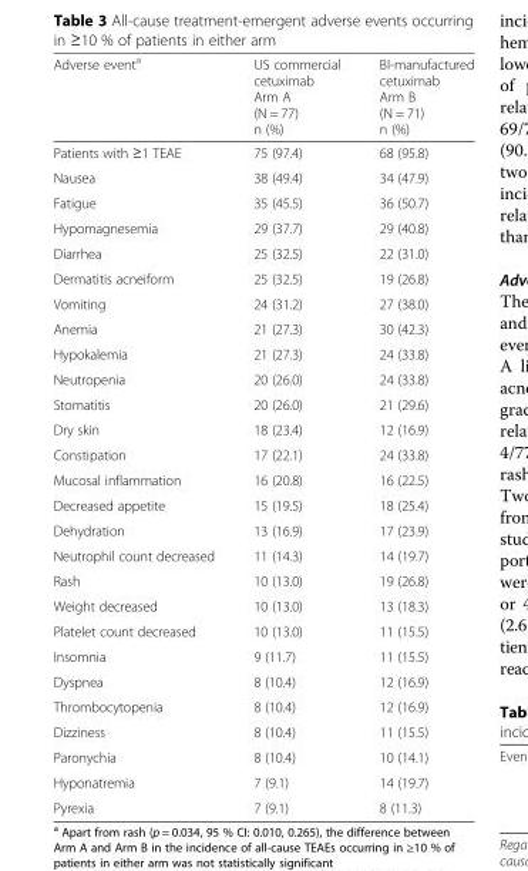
<table><thead><tr><td>Adverse event<sup>a</sup></td><td>US commercial cetuximab Arm A (N = 77) n (%)</td><td>BI-manufactured cetuximab Arm B (N = 71) n (%)</td></tr></thead><tbody><tr><td>Patients with ≥1 TEAE</td><td>75 (97.4)</td><td>68 (95.8)</td></tr><tr><td>Nausea</td><td>38 (49.4)</td><td>34 (47.9)</td></tr><tr><td>Fatigue</td><td>35 (45.5)</td><td>36 (50.7)</td></tr><tr><td>Hypomagnesemia</td><td>29 (37.7)</td><td>29 (40.8)</td></tr><tr><td>Diarrhea</td><td>25 (32.5)</td><td>22 (31.0)</td></tr><tr><td>Dermatitis acneiform</td><td>25 (32.5)</td><td>19 (26.8)</td></tr><tr><td>Vomiting</td><td>24 (31.2)</td><td>27 (38.0)</td></tr><tr><td>Anemia</td><td>21 (27.3)</td><td>30 (42.3)</td></tr><tr><td>Hypokalemia</td><td>21 (27.3)</td><td>24 (33.8)</td></tr><tr><td>Neutropenia</td><td>20 (26.0)</td><td>24 (33.8)</td></tr><tr><td>Stomatitis</td><td>20 (26.0)</td><td>21 (29.6)</td></tr><tr><td>Dry skin</td><td>18 (23.4)</td><td>12 (16.9)</td></tr><tr><td>Constipation</td><td>17 (22.1)</td><td>24 (33.8)</td></tr><tr><td>Mucosal inflammation</td><td>16 (20.8)</td><td>16 (22.5)</td></tr><tr><td>Decreased appetite</td><td>15 (19.5)</td><td>18 (25.4)</td></tr><tr><td>Dehydration</td><td>13 (16.9)</td><td>17 (23.9)</td></tr><tr><td>Neutrophil count decreased</td><td>11 (14.3)</td><td>14 (19.7)</td></tr><tr><td>Rash</td><td>10 (13.0)</td><td>19 (26.8)</td></tr><tr><td>Weight decreased</td><td>10 (13.0)</td><td>13 (18.3)</td></tr><tr><td>Platelet count decreased</td><td>10 (13.0)</td><td>11 (15.5)</td></tr><tr><td>Insomnia</td><td>9 (11.7)</td><td>11 (15.5)</td></tr><tr><td>Dyspnea</td><td>8 (10.4)</td><td>12 (16.9)</td></tr><tr><td>Thrombocytopenia</td><td>8 (10.4)</td><td>12 (16.9)</td></tr><tr><td>Dizziness</td><td>8 (10.4)</td><td>11 (15.5)</td></tr><tr><td>Paronychia</td><td>8 (10.4)</td><td>10 (14.1)</td></tr><tr><td>Hyponatremia</td><td>7 (9.1)</td><td>14 (19.7)</td></tr><tr><td>Pyrexia</td><td>7 (9.1)</td><td>8 (11.3)</td></tr></tbody></table>